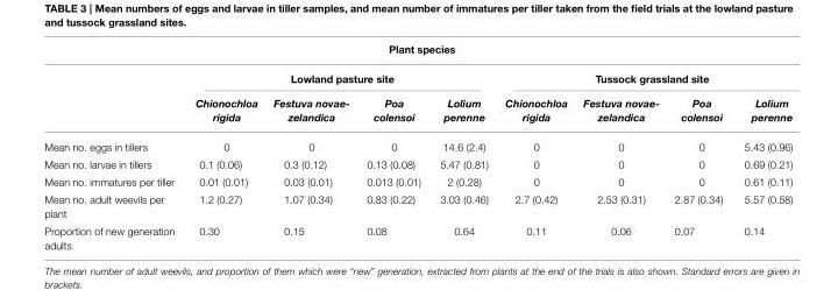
<table><thead><tr><td colspan="9">Plant species</td></tr><tr><td rowspan="2"></td><td colspan="4">Lowland pasture site</td><td colspan="4">Tussock grassland site</td></tr><tr><td>Chionochloa rigida</td><td>Festuva novae- zelandica</td><td>Poa colensoi</td><td>Lolium perenne</td><td>Chionochloa rigida</td><td>Festuva novae- zelandica</td><td>Poa colensoi</td><td>Lolium perenne</td></tr></thead><tbody><tr><td>Mean no. eggs in tillers</td><td>0</td><td>0</td><td>0</td><td>14.6 (2.4)</td><td>0</td><td>0</td><td>0</td><td>5.43 (0.96)</td></tr><tr><td>Mean no. larvae in tillers</td><td>0.1 (0.06)</td><td>0.3 (0.12)</td><td>0.13 (0.08)</td><td>5.47 (0.81)</td><td>0</td><td>0</td><td>0</td><td>0.69 (0.21)</td></tr><tr><td>Mean no. immatures per tiller</td><td>0.01 (0.01)</td><td>0.03 (0.01)</td><td>0.013 (0.01)</td><td>2 (0.28)</td><td>0</td><td>0</td><td>0</td><td>0.61 (0.11)</td></tr><tr><td>Mean no. adult weevils per plant</td><td>1.2 (0.27)</td><td>1.07 (0.34)</td><td>0.83 (0.22)</td><td>3.03 (0.46)</td><td>2.7 (0.42)</td><td>2.53 (0.31)</td><td>2.87 (0.34)</td><td>5.57 (0.58)</td></tr><tr><td>Proportion of new generation adults</td><td>0.30</td><td>0.15</td><td>0.08</td><td>0.64</td><td>0.11</td><td>0.06</td><td>0.07</td><td>0.14</td></tr></tbody></table>